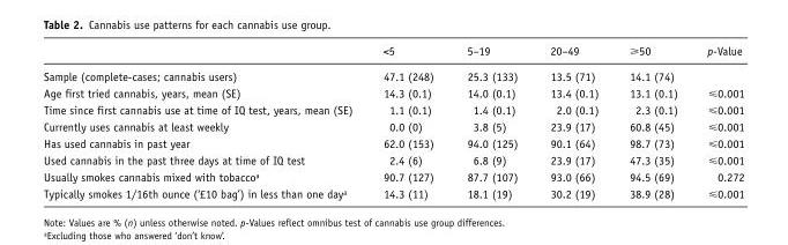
<table><thead><tr><td></td><td>&lt;5</td><td>5–19</td><td>20–49</td><td>⩾50</td><td>p-Value</td></tr></thead><tbody><tr><td>Sample (complete-cases; cannabis users)</td><td>47.1 (248)</td><td>25.3 (133)</td><td>13.5 (71)</td><td>14.1 (74)</td><td></td></tr><tr><td>Age first tried cannabis, years, mean (SE)</td><td>14.3 (0.1)</td><td>14.0 (0.1)</td><td>13.4 (0.1)</td><td>13.1 (0.1)</td><td>⩽0.001</td></tr><tr><td>Time since first cannabis use at time of IQ test, years, mean (SE)</td><td>1.1 (0.1)</td><td>1.4 (0.1)</td><td>2.0 (0.1)</td><td>2.3 (0.1)</td><td>⩽0.001</td></tr><tr><td>Currently uses cannabis at least weekly</td><td>0.0 (0)</td><td>3.8 (5)</td><td>23.9 (17)</td><td>60.8 (45)</td><td>⩽0.001</td></tr><tr><td>Has used cannabis in past year</td><td>62.0 (153)</td><td>94.0 (125)</td><td>90.1 (64)</td><td>98.7 (73)</td><td>⩽0.001</td></tr><tr><td>Used cannabis in the past three days at time of IQ test</td><td>2.4 (6)</td><td>6.8 (9)</td><td>23.9 (17)</td><td>47.3 (35)</td><td>⩽0.001</td></tr><tr><td>Usually smokes cannabis mixed with tobacco<sup>a</sup></td><td>90.7 (127)</td><td>87.7 (107)</td><td>93.0 (66)</td><td>94.5 (69)</td><td>0.272</td></tr><tr><td>Typically smokes 1/16th ounce (‘£10 bag’) in less than one day<sup>a</sup></td><td>14.3 (11)</td><td>18.1 (19)</td><td>30.2 (19)</td><td>38.9 (28)</td><td>⩽0.001</td></tr></tbody></table>